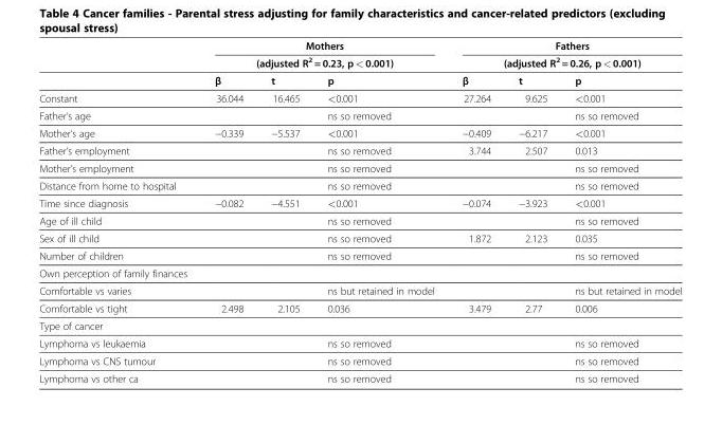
<table><thead><tr><td rowspan="3"></td><td rowspan="2" colspan="3">Mothers (adjusted R<sup>2</sup> = 0.23, p &lt; 0.001)</td><td rowspan="2" colspan="3">Fathers (adjusted R<sup>2</sup> = 0.26, p &lt; 0.001)</td></tr><tr></tr><tr><td>β</td><td>t</td><td>p</td><td>β</td><td>t</td><td>p</td></tr></thead><tbody><tr><td>Constant</td><td>36.044</td><td>16.465</td><td>&lt;0.001</td><td>27.264</td><td>9.625</td><td>&lt;0.001</td></tr><tr><td>Father’s age</td><td></td><td></td><td>ns so removed</td><td></td><td></td><td>ns so removed</td></tr><tr><td>Mother’s age</td><td>−0.339</td><td>−5.537</td><td>&lt;0.001</td><td>−0.409</td><td>−6.217</td><td>&lt;0.001</td></tr><tr><td>Father’s employment</td><td></td><td></td><td>ns so removed</td><td>3.744</td><td>2.507</td><td>0.013</td></tr><tr><td>Mother’s employment</td><td></td><td></td><td>ns so removed</td><td></td><td></td><td>ns so removed</td></tr><tr><td>Distance from home to hospital</td><td></td><td></td><td>ns so removed</td><td></td><td></td><td>ns so removed</td></tr><tr><td>Time since diagnosis</td><td>−0.082</td><td>−4.551</td><td>&lt;0.001</td><td>−0.074</td><td>−3.923</td><td>&lt;0.001</td></tr><tr><td>Age of ill child</td><td></td><td></td><td>ns so removed</td><td></td><td></td><td>ns so removed</td></tr><tr><td>Sex of ill child</td><td></td><td></td><td>ns so removed</td><td>1.872</td><td>2.123</td><td>0.035</td></tr><tr><td>Number of children</td><td></td><td></td><td>ns so removed</td><td></td><td></td><td>ns so removed</td></tr><tr><td colspan="7">Own perception of family finances</td></tr><tr><td>Comfortable vs varies</td><td></td><td></td><td>ns but retained in model</td><td></td><td></td><td>ns but retained in model</td></tr><tr><td>Comfortable vs tight</td><td>2.498</td><td>2.105</td><td>0.036</td><td>3.479</td><td>2.77</td><td>0.006</td></tr><tr><td colspan="7">Type of cancer</td></tr><tr><td>Lymphoma vs leukaemia</td><td></td><td></td><td>ns so removed</td><td></td><td></td><td>ns so removed</td></tr><tr><td>Lymphoma vs CNS tumour</td><td></td><td></td><td>ns so removed</td><td></td><td></td><td>ns so removed</td></tr><tr><td>Lymphoma vs other ca</td><td></td><td></td><td>ns so removed</td><td></td><td></td><td>ns so removed</td></tr></tbody></table>